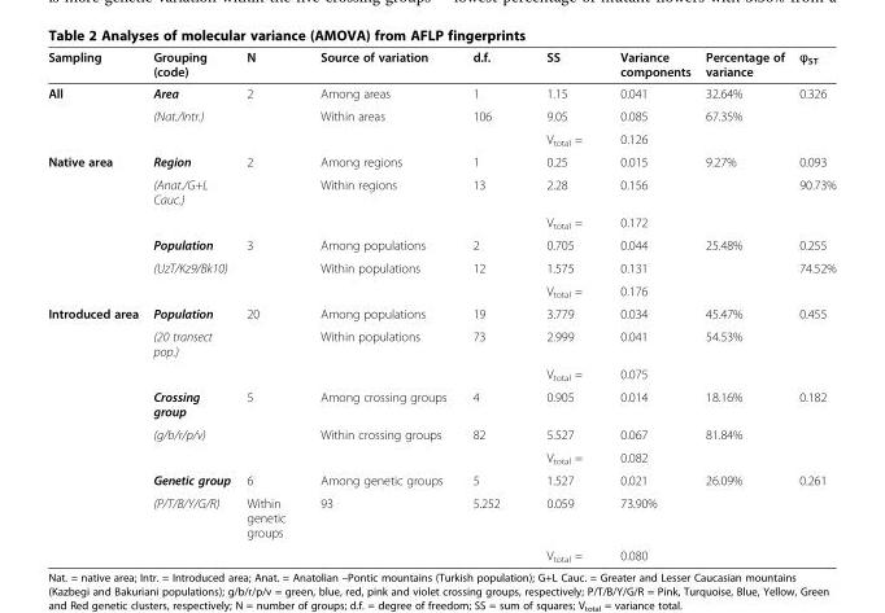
<table><thead><tr><td>Sampling</td><td>Grouping (code)</td><td>N</td><td>Source of variation</td><td>d.f.</td><td>SS</td><td>Variance components</td><td>Percentage of variance</td><td>ϕ<sub>ST</sub></td></tr></thead><tbody><tr><td rowspan="3">All</td><td>Area</td><td>2</td><td>Among areas</td><td>1</td><td>1.15</td><td>0.041</td><td>32.64%</td><td>0.326</td></tr><tr><td>(Nat./Intr.)</td><td></td><td>Within areas</td><td>106</td><td>9.05</td><td>0.085</td><td>67.35%</td><td></td></tr><tr><td></td><td></td><td></td><td></td><td>V<sub>total</sub> =</td><td>0.126</td><td></td><td></td></tr><tr><td rowspan="6">Native area</td><td>Region</td><td>2</td><td>Among regions</td><td>1</td><td>0.25</td><td>0.015</td><td>9.27%</td><td>0.093</td></tr><tr><td>(Anat./G+L Cauc.)</td><td></td><td>Within regions</td><td>13</td><td>2.28</td><td>0.156</td><td></td><td>90.73%</td></tr><tr><td></td><td></td><td></td><td></td><td>V<sub>total</sub> =</td><td>0.172</td><td></td><td></td></tr><tr><td>Population</td><td>3</td><td>Among populations</td><td>2</td><td>0.705</td><td>0.044</td><td>25.48%</td><td>0.255</td></tr><tr><td>(UzT/Kz9/Bk10)</td><td></td><td>Within populations</td><td>12</td><td>1.575</td><td>0.131</td><td></td><td>74.52%</td></tr><tr><td></td><td></td><td></td><td></td><td>V<sub>total</sub> =</td><td>0.176</td><td></td><td></td></tr><tr><td rowspan="9">Introduced area</td><td>Population</td><td>20</td><td>Among populations</td><td>19</td><td>3.779</td><td>0.034</td><td>45.47%</td><td>0.455</td></tr><tr><td>(20 transect pop.)</td><td></td><td>Within populations</td><td>73</td><td>2.999</td><td>0.041</td><td>54.53%</td><td></td></tr><tr><td></td><td></td><td></td><td></td><td>V<sub>total</sub> =</td><td>0.075</td><td></td><td></td></tr><tr><td>Crossing group</td><td>5</td><td>Among crossing groups</td><td>4</td><td>0.905</td><td>0.014</td><td>18.16%</td><td>0.182</td></tr><tr><td>(g/b/r/p/v)</td><td></td><td>Within crossing groups</td><td>82</td><td>5.527</td><td>0.067</td><td>81.84%</td><td></td></tr><tr><td></td><td></td><td></td><td></td><td>V<sub>total</sub> =</td><td>0.082</td><td></td><td></td></tr><tr><td>Genetic group</td><td>6</td><td>Among genetic groups</td><td>5</td><td>1.527</td><td>0.021</td><td>26.09%</td><td>0.261</td></tr><tr><td>(P/T/B/Y/G/R)</td><td>Within genetic groups</td><td>93</td><td>5.252</td><td>0.059</td><td>73.90%</td><td></td><td></td></tr><tr><td></td><td></td><td></td><td></td><td>V<sub>total</sub> =</td><td>0.080</td><td></td><td></td></tr></tbody></table>